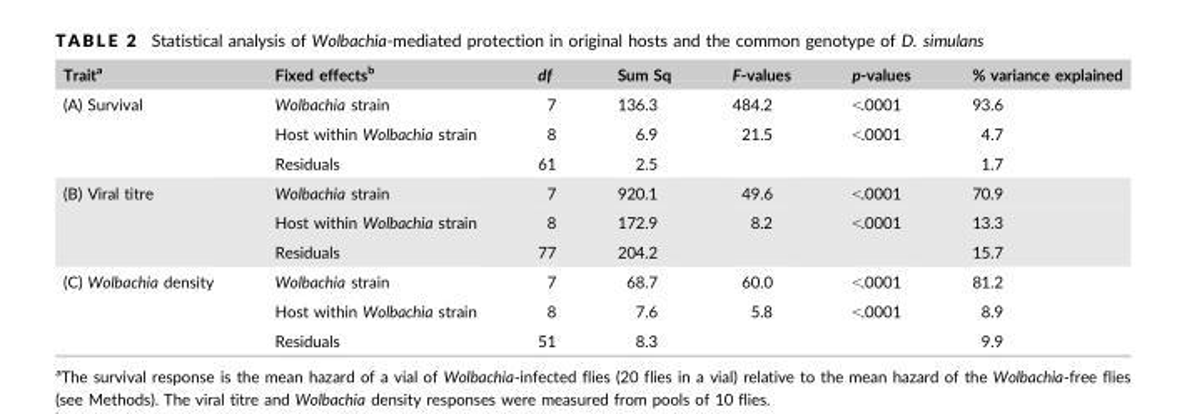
<table><thead><tr><td>Trait<sup>a</sup></td><td>Fixed effects<sup>b</sup></td><td>df</td><td>Sum Sq</td><td>F-values</td><td>p-values</td><td>% variance explained</td></tr></thead><tbody><tr><td rowspan="3">(A) Survival</td><td>Wolbachia strain</td><td>7</td><td>136.3</td><td>484.2</td><td>&lt;.0001</td><td>93.6</td></tr><tr><td>Host within Wolbachia strain</td><td>8</td><td>6.9</td><td>21.5</td><td>&lt;.0001</td><td>4.7</td></tr><tr><td>Residuals</td><td>61</td><td>2.5</td><td></td><td></td><td>1.7</td></tr><tr><td rowspan="3">(B) Viral titre</td><td>Wolbachia strain</td><td>7</td><td>920.1</td><td>49.6</td><td>&lt;.0001</td><td>70.9</td></tr><tr><td>Host within Wolbachia strain</td><td>8</td><td>172.9</td><td>8.2</td><td>&lt;.0001</td><td>13.3</td></tr><tr><td>Residuals</td><td>77</td><td>204.2</td><td></td><td></td><td>15.7</td></tr><tr><td rowspan="3">(C) Wolbachia density</td><td>Wolbachia strain</td><td>7</td><td>68.7</td><td>60.0</td><td>&lt;.0001</td><td>81.2</td></tr><tr><td>Host within Wolbachia strain</td><td>8</td><td>7.6</td><td>5.8</td><td>&lt;.0001</td><td>8.9</td></tr><tr><td>Residuals</td><td>51</td><td>8.3</td><td></td><td></td><td>9.9</td></tr></tbody></table>